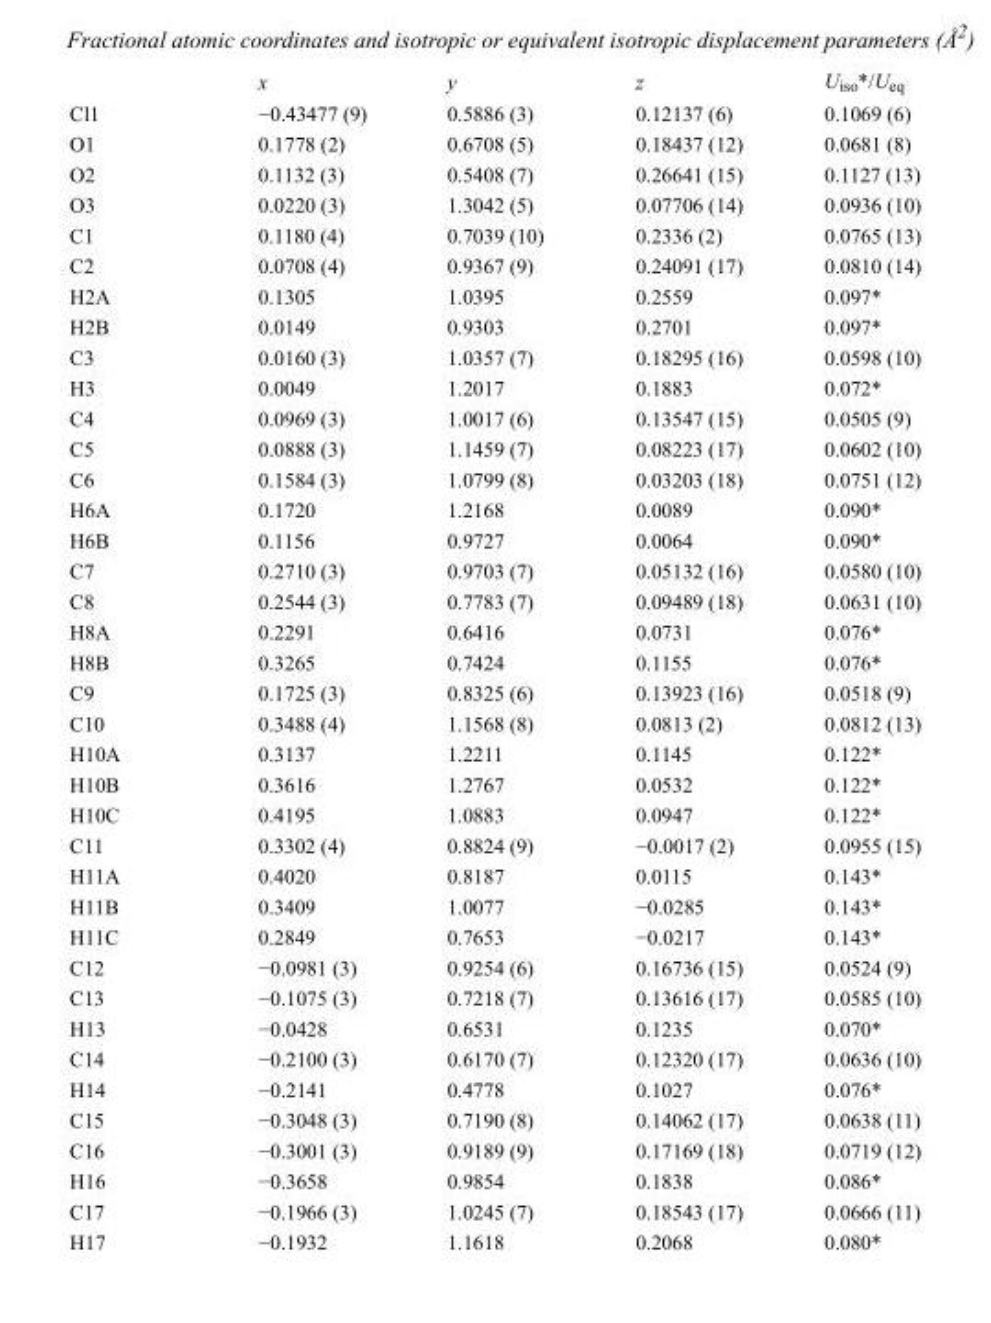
<table><thead><tr><td></td><td>x</td><td>y</td><td>z</td><td>U<sub>iso</sub>*/U<sub>eq</sub></td></tr></thead><tbody><tr><td>Cl1</td><td>−0.43477 (9)</td><td>0.5886 (3)</td><td>0.12137 (6)</td><td>0.1069 (6)</td></tr><tr><td>O1</td><td>0.1778 (2)</td><td>0.6708 (5)</td><td>0.18437 (12)</td><td>0.0681 (8)</td></tr><tr><td>O2</td><td>0.1132 (3)</td><td>0.5408 (7)</td><td>0.26641 (15)</td><td>0.1127 (13)</td></tr><tr><td>O3</td><td>0.0220 (3)</td><td>1.3042 (5)</td><td>0.07706 (14)</td><td>0.0936 (10)</td></tr><tr><td>C1</td><td>0.1180 (4)</td><td>0.7039 (10)</td><td>0.2336 (2)</td><td>0.0765 (13)</td></tr><tr><td>C2</td><td>0.0708 (4)</td><td>0.9367 (9)</td><td>0.24091 (17)</td><td>0.0810 (14)</td></tr><tr><td>H2A</td><td>0.1305</td><td>1.0395</td><td>0.2559</td><td>0.097*</td></tr><tr><td>H2B</td><td>0.0149</td><td>0.9303</td><td>0.2701</td><td>0.097*</td></tr><tr><td>C3</td><td>0.0160 (3)</td><td>1.0357 (7)</td><td>0.18295 (16)</td><td>0.0598 (10)</td></tr><tr><td>H3</td><td>0.0049</td><td>1.2017</td><td>0.1883</td><td>0.072*</td></tr><tr><td>C4</td><td>0.0969 (3)</td><td>1.0017 (6)</td><td>0.13547 (15)</td><td>0.0505 (9)</td></tr><tr><td>C5</td><td>0.0888 (3)</td><td>1.1459 (7)</td><td>0.08223 (17)</td><td>0.0602 (10)</td></tr><tr><td>C6</td><td>0.1584 (3)</td><td>1.0799 (8)</td><td>0.03203 (18)</td><td>0.0751 (12)</td></tr><tr><td>H6A</td><td>0.1720</td><td>1.2168</td><td>0.0089</td><td>0.090*</td></tr><tr><td>H6B</td><td>0.1156</td><td>0.9727</td><td>0.0064</td><td>0.090*</td></tr><tr><td>C7</td><td>0.2710 (3)</td><td>0.9703 (7)</td><td>0.05132 (16)</td><td>0.0580 (10)</td></tr><tr><td>C8</td><td>0.2544 (3)</td><td>0.7783 (7)</td><td>0.09489 (18)</td><td>0.0631 (10)</td></tr><tr><td>H8A</td><td>0.2291</td><td>0.6416</td><td>0.0731</td><td>0.076*</td></tr><tr><td>H8B</td><td>0.3265</td><td>0.7424</td><td>0.1155</td><td>0.076*</td></tr><tr><td>C9</td><td>0.1725 (3)</td><td>0.8325 (6)</td><td>0.13923 (16)</td><td>0.0518 (9)</td></tr><tr><td>C10</td><td>0.3488 (4)</td><td>1.1568 (8)</td><td>0.0813 (2)</td><td>0.0812 (13)</td></tr><tr><td>H10A</td><td>0.3137</td><td>1.2211</td><td>0.1145</td><td>0.122*</td></tr><tr><td>H10B</td><td>0.3616</td><td>1.2767</td><td>0.0532</td><td>0.122*</td></tr><tr><td>H10C</td><td>0.4195</td><td>1.0883</td><td>0.0947</td><td>0.122*</td></tr><tr><td>C11</td><td>0.3302 (4)</td><td>0.8824 (9)</td><td>−0.0017 (2)</td><td>0.0955 (15)</td></tr><tr><td>H11A</td><td>0.4020</td><td>0.8187</td><td>0.0115</td><td>0.143*</td></tr><tr><td>H11B</td><td>0.3409</td><td>1.0077</td><td>−0.0285</td><td>0.143*</td></tr><tr><td>H11C</td><td>0.2849</td><td>0.7653</td><td>−0.0217</td><td>0.143*</td></tr><tr><td>C12</td><td>−0.0981 (3)</td><td>0.9254 (6)</td><td>0.16736 (15)</td><td>0.0524 (9)</td></tr><tr><td>C13</td><td>−0.1075 (3)</td><td>0.7218 (7)</td><td>0.13616 (17)</td><td>0.0585 (10)</td></tr><tr><td>H13</td><td>−0.0428</td><td>0.6531</td><td>0.1235</td><td>0.070*</td></tr><tr><td>C14</td><td>−0.2100 (3)</td><td>0.6170 (7)</td><td>0.12320 (17)</td><td>0.0636 (10)</td></tr><tr><td>H14</td><td>−0.2141</td><td>0.4778</td><td>0.1027</td><td>0.076*</td></tr><tr><td>C15</td><td>−0.3048 (3)</td><td>0.7190 (8)</td><td>0.14062 (17)</td><td>0.0638 (11)</td></tr><tr><td>C16</td><td>−0.3001 (3)</td><td>0.9189 (9)</td><td>0.17169 (18)</td><td>0.0719 (12)</td></tr><tr><td>H16</td><td>−0.3658</td><td>0.9854</td><td>0.1838</td><td>0.086*</td></tr><tr><td>C17</td><td>−0.1966 (3)</td><td>1.0245 (7)</td><td>0.18543 (17)</td><td>0.0666 (11)</td></tr><tr><td>H17</td><td>−0.1932</td><td>1.1618</td><td>0.2068</td><td>0.080*</td></tr></tbody></table>